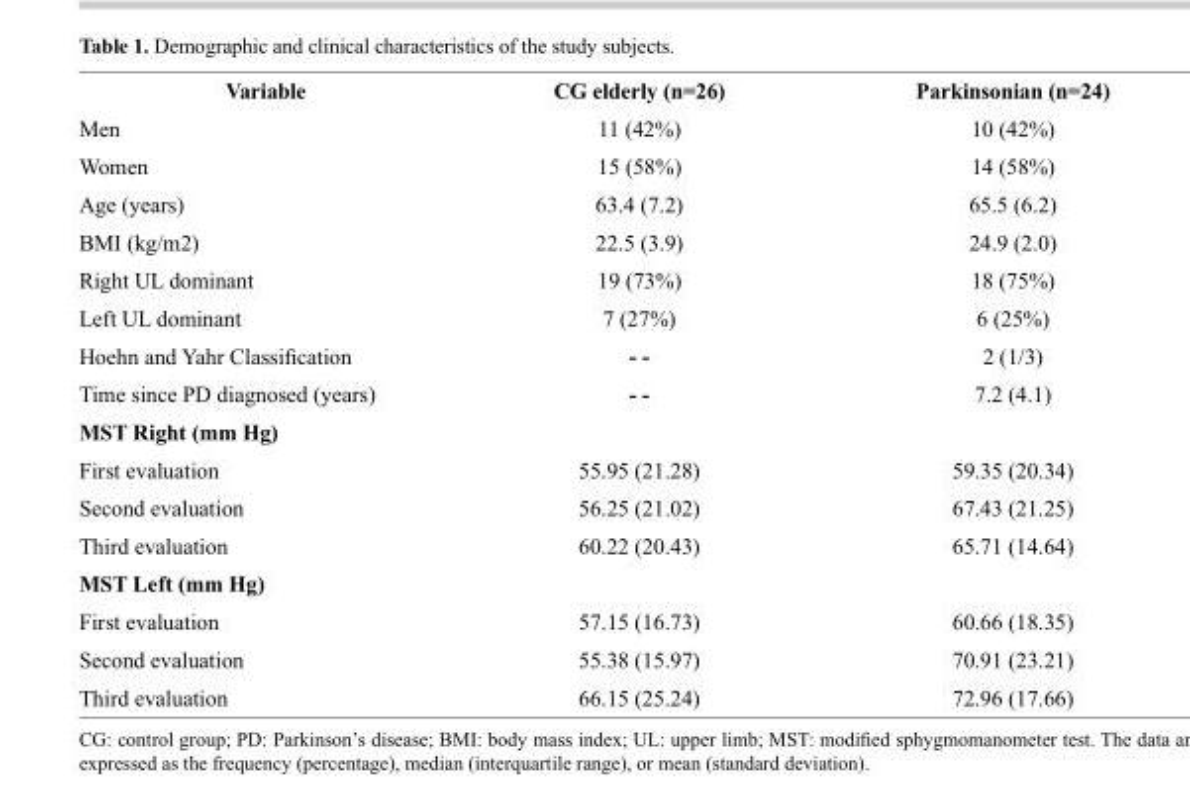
<table><thead><tr><td>Variable</td><td>CG elderly (n=26)</td><td>Parkinsonian (n=24)</td></tr></thead><tbody><tr><td>Men</td><td>11 (42%)</td><td>10 (42%)</td></tr><tr><td>Women</td><td>15 (58%)</td><td>14 (58%)</td></tr><tr><td>Age (years)</td><td>63.4 (7.2)</td><td>65.5 (6.2)</td></tr><tr><td>BMI (kg/m2)</td><td>22.5 (3.9)</td><td>24.9 (2.0)</td></tr><tr><td>Right UL dominant</td><td>19 (73%)</td><td>18 (75%)</td></tr><tr><td>Left UL dominant</td><td>7 (27%)</td><td>6 (25%)</td></tr><tr><td>Hoehn and Yahr Classification</td><td>- -</td><td>2 (1/3)</td></tr><tr><td>Time since PD diagnosed (years)</td><td>- -</td><td>7.2 (4.1)</td></tr><tr><td colspan="3">MST Right (mm Hg)</td></tr><tr><td>First evaluation</td><td>55.95 (21.28)</td><td>59.35 (20.34)</td></tr><tr><td>Second evaluation</td><td>56.25 (21.02)</td><td>67.43 (21.25)</td></tr><tr><td>Third evaluation</td><td>60.22 (20.43)</td><td>65.71 (14.64)</td></tr><tr><td colspan="3">MST Left (mm Hg)</td></tr><tr><td>First evaluation</td><td>57.15 (16.73)</td><td>60.66 (18.35)</td></tr><tr><td>Second evaluation</td><td>55.38 (15.97)</td><td>70.91 (23.21)</td></tr><tr><td>Third evaluation</td><td>66.15 (25.24)</td><td>72.96 (17.66)</td></tr></tbody></table>